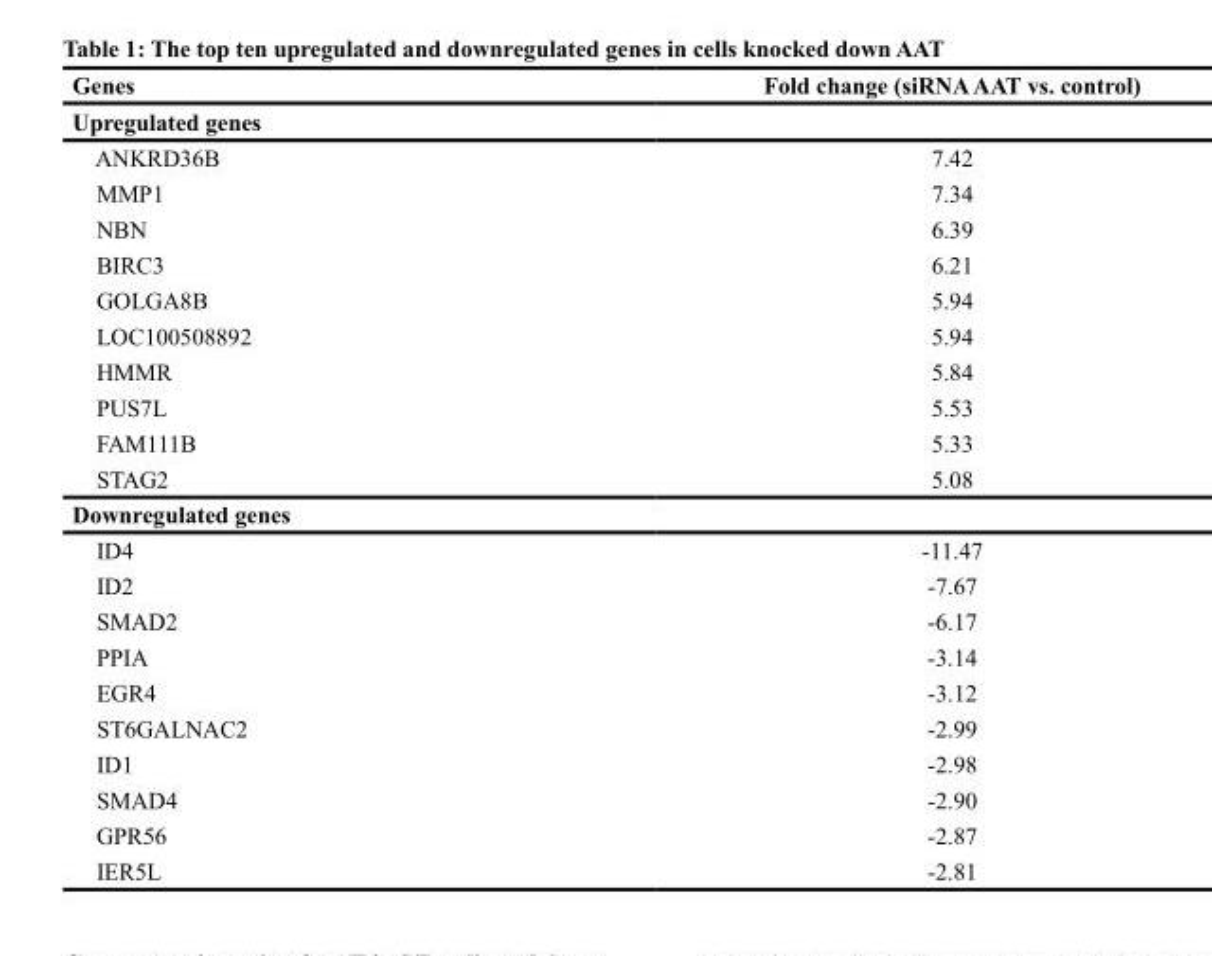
<table><thead><tr><td>Genes</td><td>Fold change (siRNA AAT vs. control)</td></tr></thead><tbody><tr><td colspan="2">Upregulated genes</td></tr><tr><td>ANKRD36B</td><td>7.42</td></tr><tr><td>MMP1</td><td>7.34</td></tr><tr><td>NBN</td><td>6.39</td></tr><tr><td>BIRC3</td><td>6.21</td></tr><tr><td>GOLGA8B</td><td>5.94</td></tr><tr><td>LOC100508892</td><td>5.94</td></tr><tr><td>HMMR</td><td>5.84</td></tr><tr><td>PUS7L</td><td>5.53</td></tr><tr><td>FAM111B</td><td>5.33</td></tr><tr><td>STAG2</td><td>5.08</td></tr><tr><td colspan="2">Downregulated genes</td></tr><tr><td>ID4</td><td>-11.47</td></tr><tr><td>ID2</td><td>-7.67</td></tr><tr><td>SMAD2</td><td>-6.17</td></tr><tr><td>PPIA</td><td>-3.14</td></tr><tr><td>EGR4</td><td>-3.12</td></tr><tr><td>ST6GALNAC2</td><td>-2.99</td></tr><tr><td>ID1</td><td>-2.98</td></tr><tr><td>SMAD4</td><td>-2.90</td></tr><tr><td>GPR56</td><td>-2.87</td></tr><tr><td>IER5L</td><td>-2.81</td></tr></tbody></table>